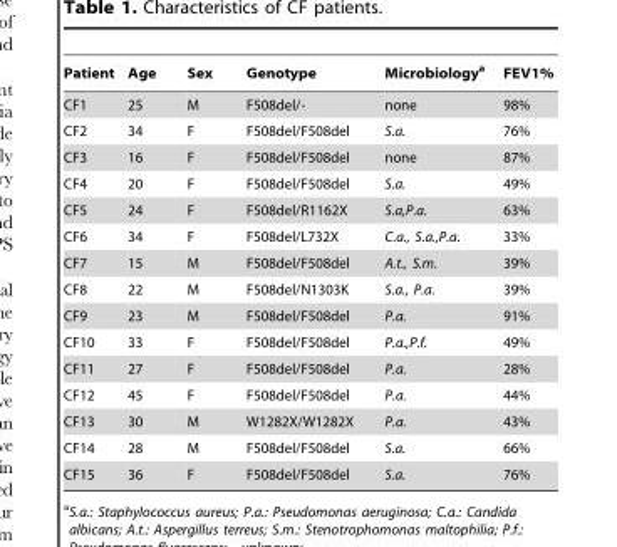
<table><thead><tr><td>Patient</td><td>Age</td><td>Sex</td><td>Genotype</td><td>Microbiology<sup>a</sup></td><td>FEV1%</td></tr></thead><tbody><tr><td>CF1</td><td>25</td><td>M</td><td>F508del/-</td><td>none</td><td>98%</td></tr><tr><td>CF2</td><td>34</td><td>F</td><td>F508del/F508del</td><td>S.a.</td><td>76%</td></tr><tr><td>CF3</td><td>16</td><td>F</td><td>F508del/F508del</td><td>none</td><td>87%</td></tr><tr><td>CF4</td><td>20</td><td>F</td><td>F508del/F508del</td><td>S.a.</td><td>49%</td></tr><tr><td>CF5</td><td>24</td><td>F</td><td>F508del/R1162X</td><td>S.a,P.a.</td><td>63%</td></tr><tr><td>CF6</td><td>34</td><td>F</td><td>F508del/L732X</td><td>C.a., S.a.,P.a.</td><td>33%</td></tr><tr><td>CF7</td><td>15</td><td>M</td><td>F508del/F508del</td><td>A.t., S.m.</td><td>39%</td></tr><tr><td>CF8</td><td>22</td><td>M</td><td>F508del/N1303K</td><td>S.a., P.a.</td><td>39%</td></tr><tr><td>CF9</td><td>23</td><td>M</td><td>F508del/F508del</td><td>P.a.</td><td>91%</td></tr><tr><td>CF10</td><td>33</td><td>F</td><td>F508del/F508del</td><td>P.a.,P.f.</td><td>49%</td></tr><tr><td>CF11</td><td>27</td><td>F</td><td>F508del/F508del</td><td>P.a.</td><td>28%</td></tr><tr><td>CF12</td><td>45</td><td>F</td><td>F508del/F508del</td><td>P.a.</td><td>44%</td></tr><tr><td>CF13</td><td>30</td><td>M</td><td>W1282X/W1282X</td><td>P.a.</td><td>43%</td></tr><tr><td>CF14</td><td>28</td><td>M</td><td>F508del/F508del</td><td>S.a.</td><td>66%</td></tr><tr><td>CF15</td><td>36</td><td>F</td><td>F508del/F508del</td><td>S.a.</td><td>76%</td></tr></tbody></table>